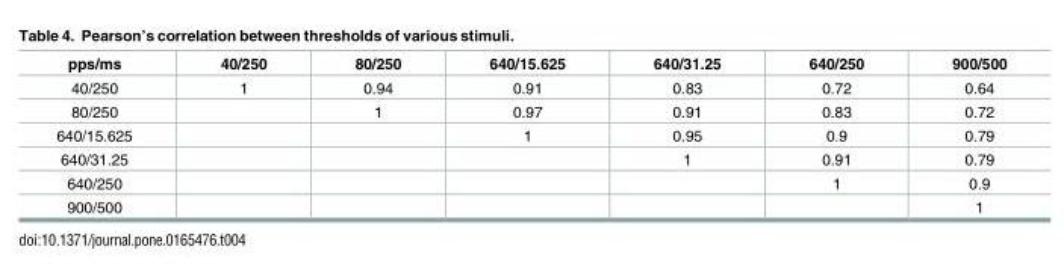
<table><thead><tr><td>pps/ms</td><td>40/250</td><td>80/250</td><td>640/15.625</td><td>640/31.25</td><td>640/250</td><td>900/500</td></tr></thead><tbody><tr><td>40/250</td><td>1</td><td>0.94</td><td>0.91</td><td>0.83</td><td>0.72</td><td>0.64</td></tr><tr><td>80/250</td><td></td><td>1</td><td>0.97</td><td>0.91</td><td>0.83</td><td>0.72</td></tr><tr><td>640/15.625</td><td></td><td></td><td>1</td><td>0.95</td><td>0.9</td><td>0.79</td></tr><tr><td>640/31.25</td><td></td><td></td><td></td><td>1</td><td>0.91</td><td>0.79</td></tr><tr><td>640/250</td><td></td><td></td><td></td><td></td><td>1</td><td>0.9</td></tr><tr><td>900/500</td><td></td><td></td><td></td><td></td><td></td><td>1</td></tr></tbody></table>